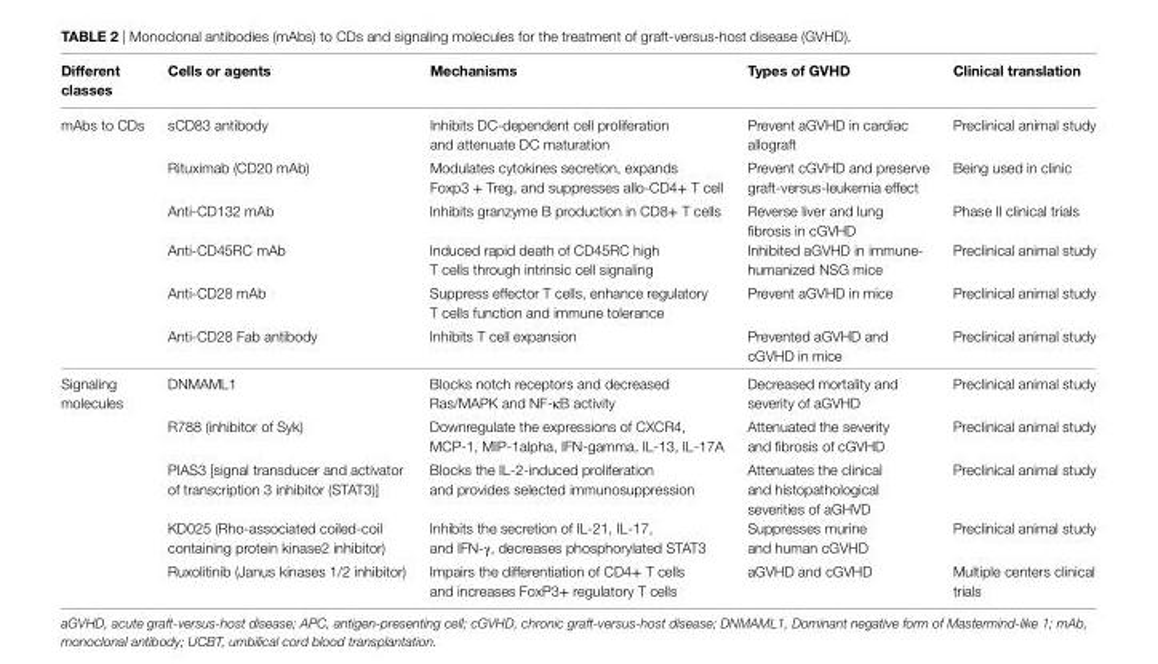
<table><thead><tr><td>Different classes</td><td>Cells or agents</td><td>Mechanisms</td><td>Types of GvHD</td><td>Clinical translation</td></tr></thead><tbody><tr><td rowspan="6">mAbs to CDs</td><td>sCD83 antibody</td><td>Inhibits DC-dependent cell proliferation and attenuate DC maturation</td><td>Prevent aGVHD in cardiac allograft</td><td>Preclinical animal study</td></tr><tr><td>Rituximab (CD20 mAb)</td><td>Modulates cytokines secretion, expands Foxp3 + Treg, and suppresses allo-CD4+ T cell</td><td>Prevent cGVHD and preserve graft-versus-leukemia effect</td><td>Being used in clinic</td></tr><tr><td>Anti-CD132 mAb</td><td>Inhibits granzyme B production in CD8+ T cells</td><td>Reverse liver and lung fibrosis in cGVHD</td><td>Phase II clinical trials</td></tr><tr><td>Anti-CD45RC mAb</td><td>Induced rapid death of CD45RC high T cells through intrinsic cell signaling</td><td>Inhibited aGVHD in immune- humanized NSG mice</td><td>Preclinical animal study</td></tr><tr><td>Anti-CD28 mAb</td><td>Suppress effector T cells, enhance regulatory T cells function and immune tolerance</td><td>Prevent aGVHD in mice</td><td>Preclinical animal study</td></tr><tr><td>Anti-CD28 Fab antibody</td><td>Inhibits T cell expansion</td><td>Prevented aGVHD and cGVHD in mice</td><td>Preclinical animal study</td></tr><tr><td rowspan="5">Signaling molecules</td><td>DNMAML1</td><td>Blocks notch receptors and decreased Ras/MAPK and NF-κB activity</td><td>Decreased mortality and severity of aGVHD</td><td>Preclinical animal study</td></tr><tr><td>R788 (inhibitor of Syk)</td><td>Downregulate the expressions of CXCR4, MCP-1, MIP-1alpha, IFN-gamma, IL-13, IL-17A</td><td>Attenuated the severity and fibrosis of cGVHD</td><td>Preclinical animal study</td></tr><tr><td>PIAS3 [signal transducer and activator of transcription 3 inhibitor (STAT3)]</td><td>Blocks the IL-2-induced proliferation and provides selected immunosuppression</td><td>Attenuates the clinical and histopathological severities of aGHVD</td><td>Preclinical animal study</td></tr><tr><td>KD025 (Rho-associated coiled-coil containing protein kinase2 inhibitor)</td><td>Inhibits the secretion of IL-21, IL-17, and IFN-γ, decreases phosphorylated STAT3</td><td>Suppresses murine and human cGVHD</td><td>Preclinical animal study</td></tr><tr><td>Ruxolitinib (Janus kinases 1/2 inhibitor)</td><td>Impairs the differentiation of CD4+ T cells and increases FoxP3+ regulatory T cells</td><td>aGVHD and cGVHD</td><td>Multiple centers clinical trials</td></tr></tbody></table>